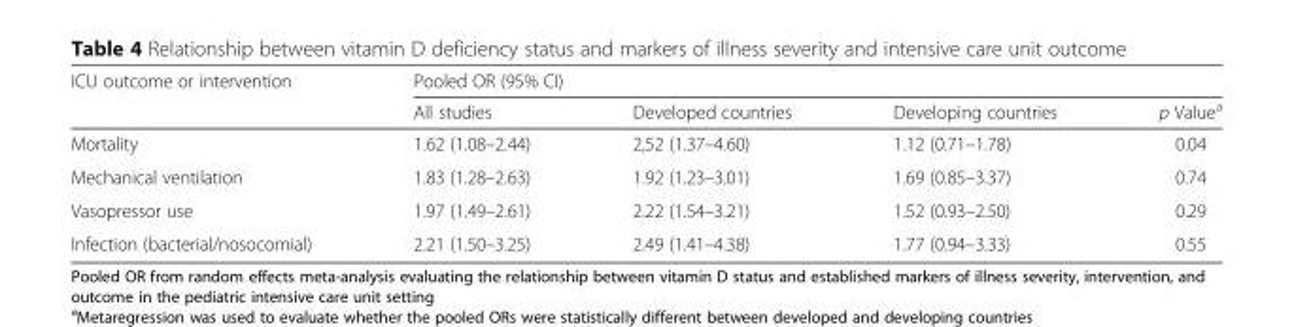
<table><thead><tr><td rowspan="2">ICU outcome or intervention</td><td colspan="4">Pooled OR (95% CI)</td></tr><tr><td>All studies</td><td>Developed countries</td><td>Developing countries</td><td>p Value<sup>a</sup></td></tr></thead><tbody><tr><td>Mortality</td><td>1.62 (1.08–2.44)</td><td>2,52 (1.37–4.60)</td><td>1.12 (0.71–1.78)</td><td>0.04</td></tr><tr><td>Mechanical ventilation</td><td>1.83 (1.28–2.63)</td><td>1.92 (1.23–3.01)</td><td>1.69 (0.85–3.37)</td><td>0.74</td></tr><tr><td>Vasopressor use</td><td>1.97 (1.49–2.61)</td><td>2.22 (1.54–3.21)</td><td>1.52 (0.93–2.50)</td><td>0.29</td></tr><tr><td>Infection (bacterial/nosocomial)</td><td>2.21 (1.50–3.25)</td><td>2.49 (1.41–4.38)</td><td>1.77 (0.94–3.33)</td><td>0.55</td></tr></tbody></table>